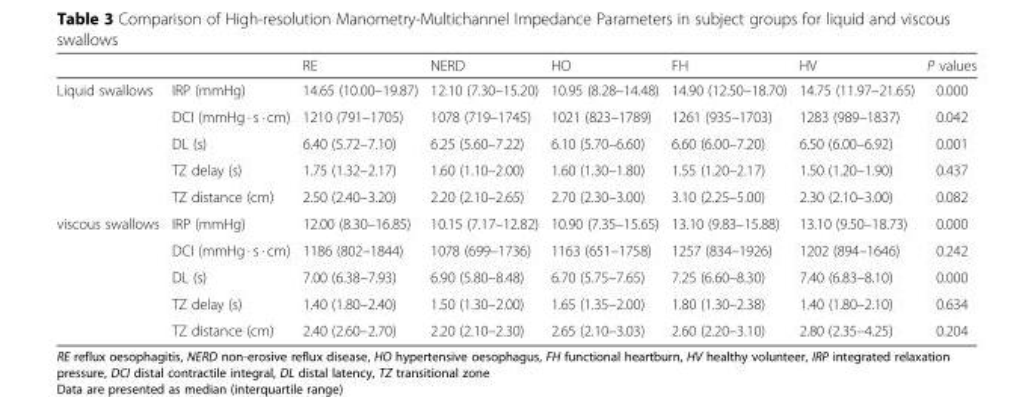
<table><thead><tr><td></td><td></td><td>RE</td><td>NERD</td><td>HO</td><td>FH</td><td>HV</td><td>P values</td></tr></thead><tbody><tr><td rowspan="5">Liquid swallows</td><td>IRP (mmHg)</td><td>14.65 (10.00–19.87)</td><td>12.10 (7.30–15.20)</td><td>10.95 (8.28–14.48)</td><td>14.90 (12.50–18.70)</td><td>14.75 (11.97–21.65)</td><td>0.000</td></tr><tr><td>DCI (mmHg · s · cm)</td><td>1210 (791–1705)</td><td>1078 (719–1745)</td><td>1021 (823–1789)</td><td>1261 (935–1703)</td><td>1283 (989–1837)</td><td>0.042</td></tr><tr><td>DL (s)</td><td>6.40 (5.72–7.10)</td><td>6.25 (5.60–7.22)</td><td>6.10 (5.70–6.60)</td><td>6.60 (6.00–7.20)</td><td>6.50 (6.00–6.92)</td><td>0.001</td></tr><tr><td>TZ delay (s)</td><td>1.75 (1.32–2.17)</td><td>1.60 (1.10–2.00)</td><td>1.60 (1.30–1.80)</td><td>1.55 (1.20–2.17)</td><td>1.50 (1.20–1.90)</td><td>0.437</td></tr><tr><td>TZ distance (cm)</td><td>2.50 (2.40–3.20)</td><td>2.20 (2.10–2.65)</td><td>2.70 (2.30–3.00)</td><td>3.10 (2.25–5.00)</td><td>2.30 (2.10–3.00)</td><td>0.082</td></tr><tr><td rowspan="5">viscous swallows</td><td>IRP (mmHg)</td><td>12.00 (8.30–16.85)</td><td>10.15 (7.17–12.82)</td><td>10.90 (7.35–15.65)</td><td>13.10 (9.83–15.88)</td><td>13.10 (9.50–18.73)</td><td>0.000</td></tr><tr><td>DCI (mmHg · s · cm)</td><td>1186 (802–1844)</td><td>1078 (699–1736)</td><td>1163 (651–1758)</td><td>1257 (834–1926)</td><td>1202 (894–1646)</td><td>0.242</td></tr><tr><td>DL (s)</td><td>7.00 (6.38–7.93)</td><td>6.90 (5.80–8.48)</td><td>6.70 (5.75–7.65)</td><td>7.25 (6.60–8.30)</td><td>7.40 (6.83–8.10)</td><td>0.000</td></tr><tr><td>TZ delay (s)</td><td>1.40 (1.80–2.40)</td><td>1.50 (1.30–2.00)</td><td>1.65 (1.35–2.00)</td><td>1.80 (1.30–2.38)</td><td>1.40 (1.80–2.10)</td><td>0.634</td></tr><tr><td>TZ distance (cm)</td><td>2.40 (2.60–2.70)</td><td>2.20 (2.10–2.30)</td><td>2.65 (2.10–3.03)</td><td>2.60 (2.20–3.10)</td><td>2.80 (2.35–4.25)</td><td>0.204</td></tr></tbody></table>